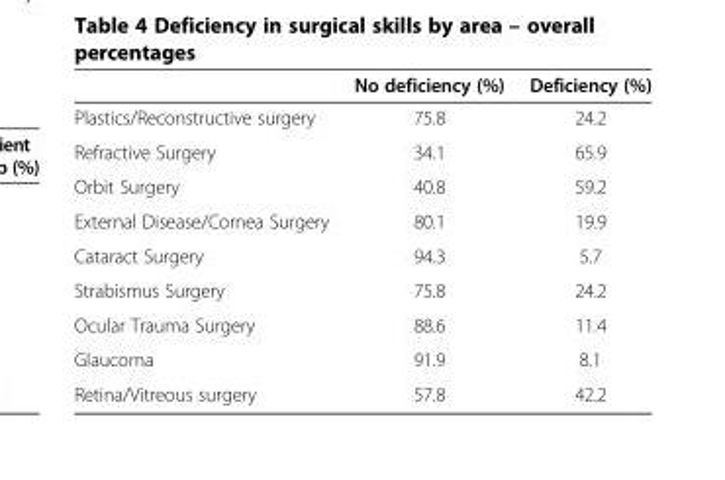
<table><thead><tr><td></td><td>No deficiency (%)</td><td>Deficiency (%)</td></tr></thead><tbody><tr><td>Plastics/Reconstructive surgery</td><td>75.8</td><td>24.2</td></tr><tr><td>Refractive Surgery</td><td>34.1</td><td>65.9</td></tr><tr><td>Orbit Surgery</td><td>40.8</td><td>59.2</td></tr><tr><td>External Disease/Cornea Surgery</td><td>80.1</td><td>19.9</td></tr><tr><td>Cataract Surgery</td><td>94.3</td><td>5.7</td></tr><tr><td>Strabismus Surgery</td><td>75.8</td><td>24.2</td></tr><tr><td>Ocular Trauma Surgery</td><td>88.6</td><td>11.4</td></tr><tr><td>Glaucoma</td><td>91.9</td><td>8.1</td></tr><tr><td>Retina/Vitreous surgery</td><td>57.8</td><td>42.2</td></tr></tbody></table>